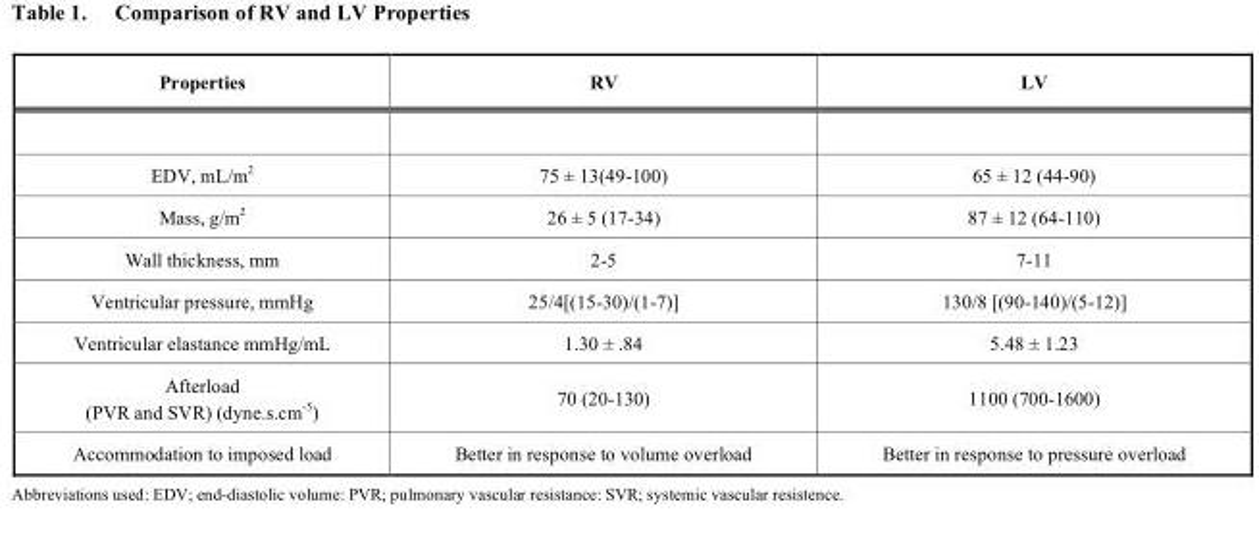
<table><thead><tr><td>Properties</td><td>RV</td><td>LV</td></tr></thead><tbody><tr><td>EDV, mL/m<sup>2</sup></td><td>75 ± 13(49-100)</td><td>65 ± 12 (44-90)</td></tr><tr><td>Mass, g/m<sup>2</sup></td><td>26 ± 5 (17-34)</td><td>87 ± 12 (64-110)</td></tr><tr><td>Wall thickness, mm</td><td>2-5</td><td>7-11</td></tr><tr><td>Ventricular pressure, mmHg</td><td>25/4[(15-30)/(1-7)]</td><td>130/8 [(90-140)/(5-12)]</td></tr><tr><td>Ventricular elastance mmHg/mL</td><td>1.30 ± .84</td><td>5.48 ± 1.23</td></tr><tr><td>Afterload (PVR and SVR) (dyne.s.cm<sup>-5</sup>)</td><td>70 (20-130)</td><td>1100 (700-1600)</td></tr><tr><td>Accommodation to imposed load</td><td>Better in response to volume overload</td><td>Better in response to pressure overload</td></tr></tbody></table>